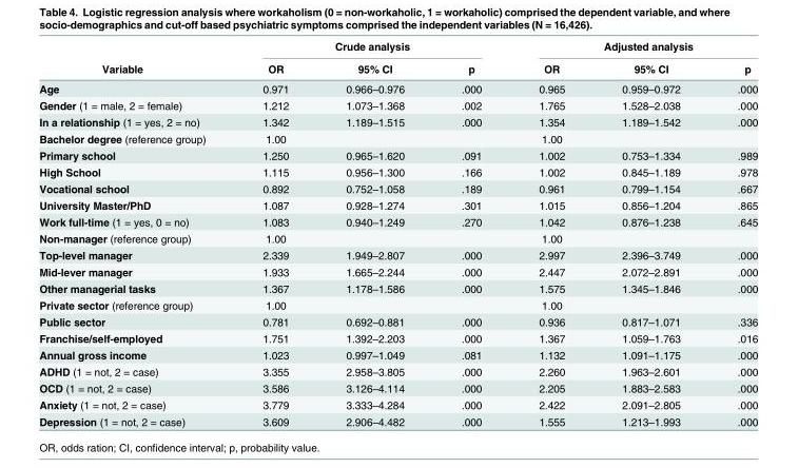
<table><thead><tr><td rowspan="2">Variable</td><td colspan="3">Crude analysis</td><td colspan="3">Adjusted analysis</td></tr><tr><td>OR</td><td>95% CI</td><td>p</td><td>OR</td><td>95% CI</td><td>p</td></tr></thead><tbody><tr><td>Age</td><td>0.971</td><td>0.966–0.976</td><td>.000</td><td>0.965</td><td>0.959–0.972</td><td>.000</td></tr><tr><td>Gender (1 = male, 2 = female)</td><td>1.212</td><td>1.073–1.368</td><td>.002</td><td>1.765</td><td>1.528–2.038</td><td>.000</td></tr><tr><td>In a relationship (1 = yes, 2 = no)</td><td>1.342</td><td>1.189–1.515</td><td>.000</td><td>1.354</td><td>1.189–1.542</td><td>.000</td></tr><tr><td>Bachelor degree (reference group)</td><td>1.00</td><td></td><td></td><td>1.00</td><td></td><td></td></tr><tr><td>Primary school</td><td>1.250</td><td>0.965–1.620</td><td>.091</td><td>1.002</td><td>0.753–1.334</td><td>.989</td></tr><tr><td>High School</td><td>1.115</td><td>0.956–1.300</td><td>.166</td><td>1.002</td><td>0.845–1.189</td><td>.978</td></tr><tr><td>Vocational school</td><td>0.892</td><td>0.752–1.058</td><td>.189</td><td>0.961</td><td>0.799–1.154</td><td>.667</td></tr><tr><td>University Master/PhD</td><td>1.087</td><td>0.928–1.274</td><td>.301</td><td>1.015</td><td>0.856–1.204</td><td>.865</td></tr><tr><td>Work full-time (1 = yes, 0 = no)</td><td>1.083</td><td>0.940–1.249</td><td>.270</td><td>1.042</td><td>0.876–1.238</td><td>.645</td></tr><tr><td>Non-manager (reference group)</td><td>1.00</td><td></td><td></td><td>1.00</td><td></td><td></td></tr><tr><td>Top-level manager</td><td>2.339</td><td>1.949–2.807</td><td>.000</td><td>2.997</td><td>2.396–3.749</td><td>.000</td></tr><tr><td>Mid-lever manager</td><td>1.933</td><td>1.665–2.244</td><td>.000</td><td>2.447</td><td>2.072–2.891</td><td>.000</td></tr><tr><td>Other managerial tasks</td><td>1.367</td><td>1.178–1.586</td><td>.000</td><td>1.575</td><td>1.345–1.846</td><td>.000</td></tr><tr><td>Private sector (reference group)</td><td>1.00</td><td></td><td></td><td>1.00</td><td></td><td></td></tr><tr><td>Public sector</td><td>0.781</td><td>0.692–0.881</td><td>.000</td><td>0.936</td><td>0.817–1.071</td><td>.336</td></tr><tr><td>Franchise/self-employed</td><td>1.751</td><td>1.392–2.203</td><td>.000</td><td>1.367</td><td>1.059–1.763</td><td>.016</td></tr><tr><td>Annual gross income</td><td>1.023</td><td>0.997–1.049</td><td>.081</td><td>1.132</td><td>1.091–1.175</td><td>.000</td></tr><tr><td>ADHD (1 = not, 2 = case)</td><td>3.355</td><td>2.958–3.805</td><td>.000</td><td>2.260</td><td>1.963–2.601</td><td>.000</td></tr><tr><td>OCD (1 = not, 2 = case)</td><td>3.586</td><td>3.126–4.114</td><td>.000</td><td>2.205</td><td>1.883–2.583</td><td>.000</td></tr><tr><td>Anxiety (1 = not, 2 = case)</td><td>3.779</td><td>3.333–4.284</td><td>.000</td><td>2.422</td><td>2.091–2.805</td><td>.000</td></tr><tr><td>Depression (1 = not, 2 = case)</td><td>3.609</td><td>2.906–4.482</td><td>.000</td><td>1.555</td><td>1.213–1.993</td><td>.000</td></tr></tbody></table>